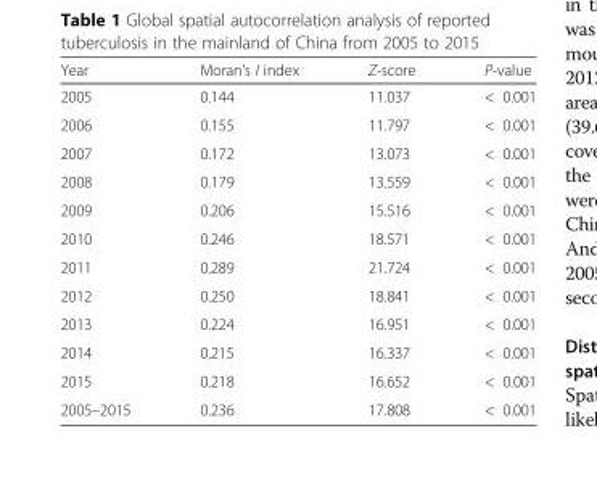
<table><thead><tr><td>Year</td><td>Moran’s I index</td><td>Z-score</td><td>P-value</td></tr></thead><tbody><tr><td>2005</td><td>0.144</td><td>11.037</td><td>&lt; 0.001</td></tr><tr><td>2006</td><td>0.155</td><td>11.797</td><td>&lt; 0.001</td></tr><tr><td>2007</td><td>0.172</td><td>13.073</td><td>&lt; 0.001</td></tr><tr><td>2008</td><td>0.179</td><td>13.559</td><td>&lt; 0.001</td></tr><tr><td>2009</td><td>0.206</td><td>15.516</td><td>&lt; 0.001</td></tr><tr><td>2010</td><td>0.246</td><td>18.571</td><td>&lt; 0.001</td></tr><tr><td>2011</td><td>0.289</td><td>21.724</td><td>&lt; 0.001</td></tr><tr><td>2012</td><td>0.250</td><td>18.841</td><td>&lt; 0.001</td></tr><tr><td>2013</td><td>0.224</td><td>16.951</td><td>&lt; 0.001</td></tr><tr><td>2014</td><td>0.215</td><td>16.337</td><td>&lt; 0.001</td></tr><tr><td>2015</td><td>0.218</td><td>16.652</td><td>&lt; 0.001</td></tr><tr><td>2005–2015</td><td>0.236</td><td>17.808</td><td>&lt; 0.001</td></tr></tbody></table>